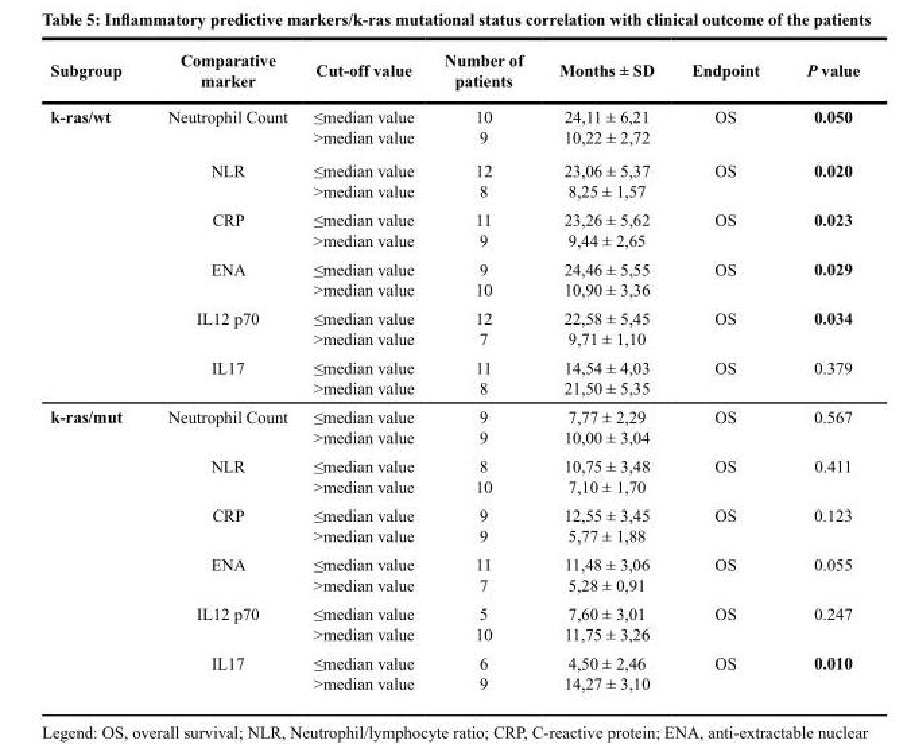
<table><thead><tr><td>Subgroup</td><td>Comparative marker</td><td>Cut-off value</td><td>Number of patients</td><td>Months ± SD</td><td>Endpoint</td><td>P value</td></tr></thead><tbody><tr><td rowspan="6">k-ras/wt</td><td>Neutrophil Count</td><td>≤median value &gt;median value</td><td>10 9</td><td>24,11 ± 6,21 10,22 ± 2,72</td><td>OS</td><td>0.050</td></tr><tr><td>NLR</td><td>≤median value &gt;median value</td><td>12 8</td><td>23,06 ± 5,37 8,25 ± 1,57</td><td>OS</td><td>0.020</td></tr><tr><td>CRP</td><td>≤median value &gt;median value</td><td>11 9</td><td>23,26 ± 5,62 9,44 ± 2,65</td><td>OS</td><td>0.023</td></tr><tr><td>ENA</td><td>≤median value &gt;median value</td><td>9 10</td><td>24,46 ± 5,55 10,90 ± 3,36</td><td>OS</td><td>0.029</td></tr><tr><td>IL12 p70</td><td>≤median value &gt;median value</td><td>12 7</td><td>22,58 ± 5,45 9,71 ± 1,10</td><td>OS</td><td>0.034</td></tr><tr><td>IL17</td><td>≤median value &gt;median value</td><td>11 8</td><td>14,54 ± 4,03 21,50 ± 5,35</td><td>OS</td><td>0.379</td></tr><tr><td rowspan="6">k-ras/mut</td><td>Neutrophil Count</td><td>≤median value &gt;median value</td><td>9 9</td><td>7,77 ± 2,29 10,00 ± 3,04</td><td>OS</td><td>0.567</td></tr><tr><td>NLR</td><td>≤median value &gt;median value</td><td>8 10</td><td>10,75 ± 3,48 7,10 ± 1,70</td><td>OS</td><td>0.411</td></tr><tr><td>CRP</td><td>≤median value &gt;median value</td><td>9 9</td><td>12,55 ± 3,45 5,77 ± 1,88</td><td>OS</td><td>0.123</td></tr><tr><td>ENA</td><td>≤median value &gt;median value</td><td>11 7</td><td>11,48 ± 3,06 5,28 ± 0,91</td><td>OS</td><td>0.055</td></tr><tr><td>IL12 p70</td><td>≤median value &gt;median value</td><td>5 10</td><td>7,60 ± 3,01 11,75 ± 3,26</td><td>OS</td><td>0.247</td></tr><tr><td>IL17</td><td>≤median value &gt;median value</td><td>6 9</td><td>4,50 ± 2,46 14,27 ± 3,10</td><td>OS</td><td>0.010</td></tr></tbody></table>